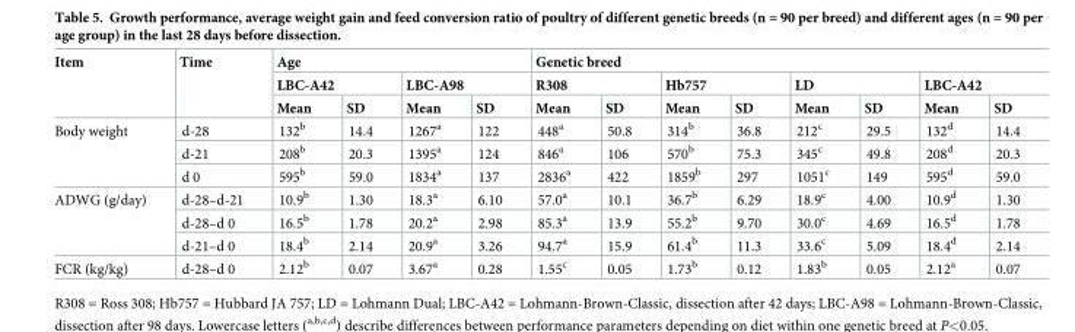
<table><thead><tr><td rowspan="3">Item</td><td rowspan="3">Time</td><td colspan="4">Age</td><td colspan="8">Genetic breed</td></tr><tr><td colspan="2">LBC-A42</td><td colspan="2">LBC-A98</td><td colspan="2">R308</td><td colspan="2">Hb757</td><td colspan="2">LD</td><td colspan="2">LBC-A42</td></tr><tr><td>Mean</td><td>SD</td><td>Mean</td><td>SD</td><td>Mean</td><td>SD</td><td>Mean</td><td>SD</td><td>Mean</td><td>SD</td><td>Mean</td><td>SD</td></tr></thead><tbody><tr><td rowspan="3">Body weight</td><td>d-28</td><td>132<sup>b</sup></td><td>14.4</td><td>1267<sup>a</sup></td><td>122</td><td>448<sup>a</sup></td><td>50.8</td><td>314<sup>b</sup></td><td>36.8</td><td>212<sup>c</sup></td><td>29.5</td><td>132<sup>d</sup></td><td>14.4</td></tr><tr><td>d-21</td><td>208<sup>b</sup></td><td>20.3</td><td>1395<sup>a</sup></td><td>124</td><td>846<sup>a</sup></td><td>106</td><td>570<sup>b</sup></td><td>75.3</td><td>345<sup>c</sup></td><td>49.8</td><td>208<sup>d</sup></td><td>20.3</td></tr><tr><td>d 0</td><td>595<sup>b</sup></td><td>59.0</td><td>1834<sup>a</sup></td><td>137</td><td>2836<sup>a</sup></td><td>422</td><td>1859<sup>b</sup></td><td>297</td><td>1051<sup>c</sup></td><td>149</td><td>595<sup>d</sup></td><td>59.0</td></tr><tr><td rowspan="3">ADWG (g/day)</td><td>d-28–d-21</td><td>10.9<sup>b</sup></td><td>1.30</td><td>18.3<sup>a</sup></td><td>6.10</td><td>57.0<sup>a</sup></td><td>10.1</td><td>36.7<sup>b</sup></td><td>6.29</td><td>18.9<sup>c</sup></td><td>4.00</td><td>10.9<sup>d</sup></td><td>1.30</td></tr><tr><td>d-28–d 0</td><td>16.5<sup>b</sup></td><td>1.78</td><td>20.2<sup>a</sup></td><td>2.98</td><td>85.3<sup>a</sup></td><td>13.9</td><td>55.2<sup>b</sup></td><td>9.70</td><td>30.0<sup>c</sup></td><td>4.69</td><td>16.5<sup>d</sup></td><td>1.78</td></tr><tr><td>d-21–d 0</td><td>18.4<sup>b</sup></td><td>2.14</td><td>20.9<sup>a</sup></td><td>3.26</td><td>94.7<sup>a</sup></td><td>15.9</td><td>61.4<sup>b</sup></td><td>11.3</td><td>33.6<sup>c</sup></td><td>5.09</td><td>18.4<sup>d</sup></td><td>2.14</td></tr><tr><td>FCR (kg/kg)</td><td>d-28–d 0</td><td>2.12<sup>b</sup></td><td>0.07</td><td>3.67<sup>a</sup></td><td>0.28</td><td>1.55<sup>c</sup></td><td>0.05</td><td>1.73<sup>b</sup></td><td>0.12</td><td>1.83<sup>b</sup></td><td>0.05</td><td>2.12<sup>a</sup></td><td>0.07</td></tr></tbody></table>